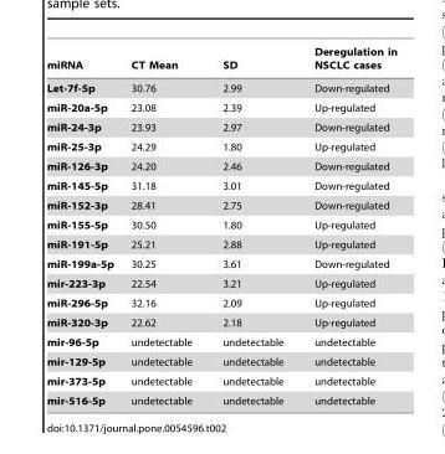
<table><thead><tr><td>miRNA</td><td>CT Mean</td><td>SD</td><td>Deregulation in NSCLC cases</td></tr></thead><tbody><tr><td>Let-7f-5p</td><td>30.76</td><td>2.99</td><td>Down-regulated</td></tr><tr><td>miR-20a-5p</td><td>23.08</td><td>2.39</td><td>Up-regulated</td></tr><tr><td>miR-24-3p</td><td>23.93</td><td>2.97</td><td>Down-regulated</td></tr><tr><td>miR-25-3p</td><td>24.29</td><td>1.80</td><td>Up-regulated</td></tr><tr><td>miR-126-3p</td><td>24.20</td><td>2.46</td><td>Down-regulated</td></tr><tr><td>miR-145-5p</td><td>31.18</td><td>3.01</td><td>Down-regulated</td></tr><tr><td>miR-152-3p</td><td>28.41</td><td>2.75</td><td>Down-regulated</td></tr><tr><td>miR-155-5p</td><td>30.50</td><td>1.80</td><td>Up-regulated</td></tr><tr><td>miR-191-5p</td><td>25.21</td><td>2.88</td><td>Up-regulated</td></tr><tr><td>miR-199a-5p</td><td>30.25</td><td>3.61</td><td>Down-regulated</td></tr><tr><td>mir-223-3p</td><td>22.54</td><td>3.21</td><td>Up-regulated</td></tr><tr><td>miR-296-5p</td><td>32.16</td><td>2.09</td><td>Up-regulated</td></tr><tr><td>miR-320-3p</td><td>22.62</td><td>2.18</td><td>Up-regulated</td></tr><tr><td>mir-96-5p</td><td>undetectable</td><td>undetectable</td><td>undetectable</td></tr><tr><td>mir-129-5p</td><td>undetectable</td><td>undetectable</td><td>undetectable</td></tr><tr><td>mir-373-5p</td><td>undetectable</td><td>undetectable</td><td>undetectable</td></tr><tr><td>mir-516-5p</td><td>undetectable</td><td>undetectable</td><td>undetectable</td></tr></tbody></table>